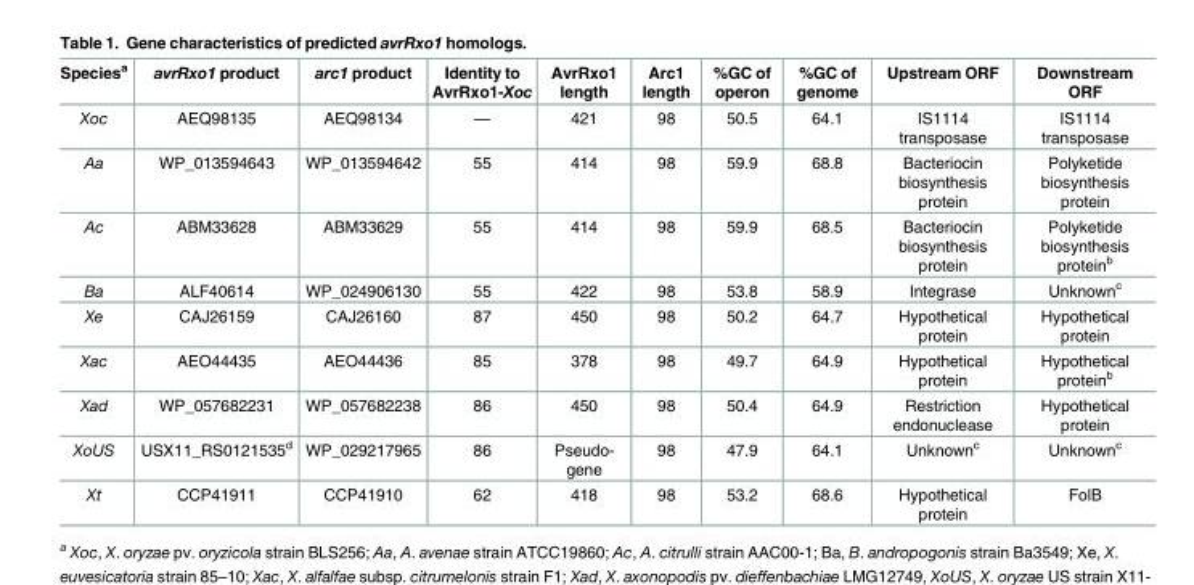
<table><thead><tr><td>Species<sup>a</sup></td><td>avrRxo1 product</td><td>arc1 product</td><td>Identity to AvrRxo1-Xoc</td><td>AvrRxo1 length</td><td>Arc1 length</td><td>%GC of operon</td><td>%GC of genome</td><td>Upstream ORF</td><td>Downstream ORF</td></tr></thead><tbody><tr><td>Xoc</td><td>AEQ98135</td><td>AEQ98134</td><td>—</td><td>421</td><td>98</td><td>50.5</td><td>64.1</td><td>IS1114 transposase</td><td>IS1114 transposase</td></tr><tr><td>Aa</td><td>WP_013594643</td><td>WP_013594642</td><td>55</td><td>414</td><td>98</td><td>59.9</td><td>68.8</td><td>Bacteriocin biosynthesis protein</td><td>Polyketide biosynthesis protein</td></tr><tr><td>Ac</td><td>ABM33628</td><td>ABM33629</td><td>55</td><td>414</td><td>98</td><td>59.9</td><td>68.5</td><td>Bacteriocin biosynthesis protein</td><td>Polyketide biosynthesis protein<sup>b</sup></td></tr><tr><td>Ba</td><td>ALF40614</td><td>WP_024906130</td><td>55</td><td>422</td><td>98</td><td>53.8</td><td>58.9</td><td>Integrase</td><td>Unknown<sup>c</sup></td></tr><tr><td>Xe</td><td>CAJ26159</td><td>CAJ26160</td><td>87</td><td>450</td><td>98</td><td>50.2</td><td>64.7</td><td>Hypothetical protein</td><td>Hypothetical protein</td></tr><tr><td>Xac</td><td>AEO44435</td><td>AEO44436</td><td>85</td><td>378</td><td>98</td><td>49.7</td><td>64.9</td><td>Hypothetical protein</td><td>Hypothetical protein<sup>b</sup></td></tr><tr><td>Xad</td><td>WP_057682231</td><td>WP_057682238</td><td>86</td><td>450</td><td>98</td><td>50.4</td><td>64.9</td><td>Restriction endonuclease</td><td>Hypothetical protein</td></tr><tr><td>XoUS</td><td>USX11_RS0121535<sup>d</sup></td><td>WP_029217965</td><td>86</td><td>Pseudo- gene</td><td>98</td><td>47.9</td><td>64.1</td><td>Unknown<sup>c</sup></td><td>Unknown<sup>c</sup></td></tr><tr><td>Xt</td><td>CCP41911</td><td>CCP41910</td><td>62</td><td>418</td><td>98</td><td>53.2</td><td>68.6</td><td>Hypothetical protein</td><td>FolB</td></tr></tbody></table>